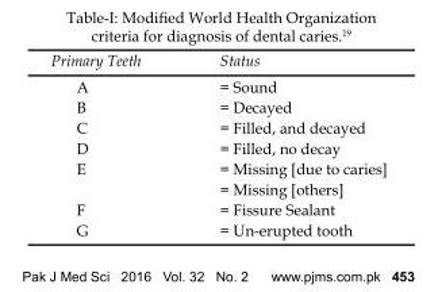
<table><thead><tr><td>Primary Teeth</td><td>Status</td></tr></thead><tbody><tr><td>A</td><td>= Sound</td></tr><tr><td>B</td><td>= Decayed</td></tr><tr><td>C</td><td>= Filled, and decayed</td></tr><tr><td>D</td><td>= Filled, no decay</td></tr><tr><td>E</td><td>= Missing [due to caries] = Missing [others]</td></tr><tr><td>F</td><td>= Fissure Sealant</td></tr><tr><td>G</td><td>= Un-erupted tooth</td></tr></tbody></table>